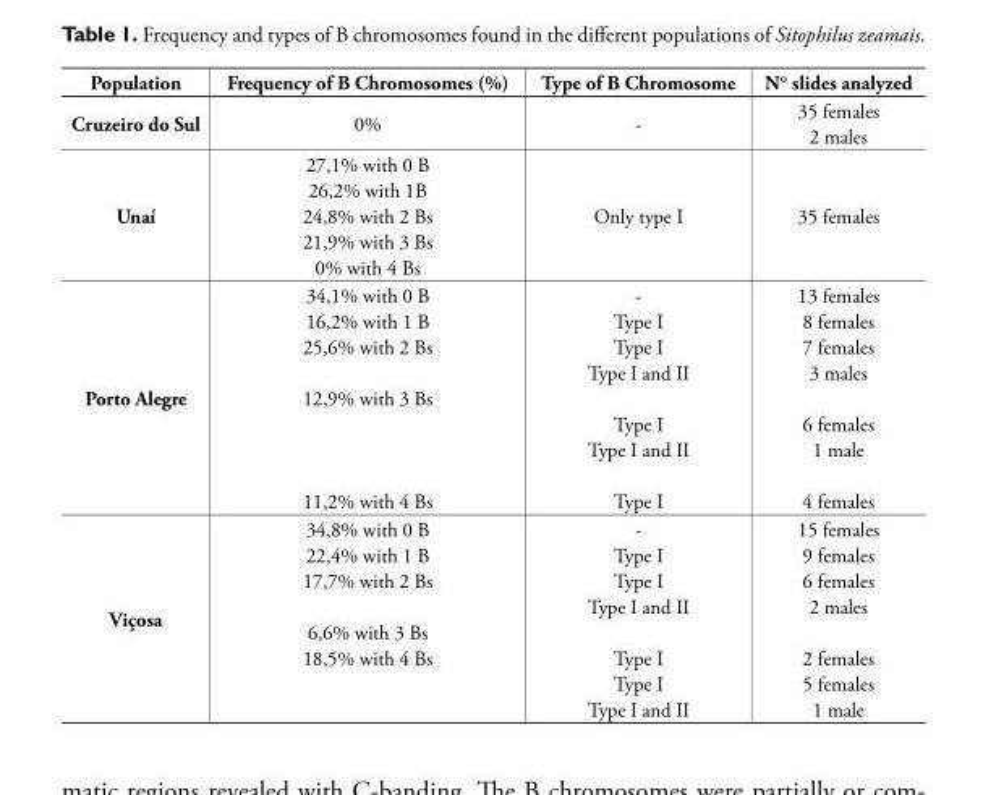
<table><thead><tr><td>Population</td><td>Frequency of B Chromosomes (%)</td><td>Type of B Chromosome</td><td>N° slides analyzed</td></tr></thead><tbody><tr><td>Cruzeiro do Sul</td><td>0%</td><td>-</td><td>35 females 2 males</td></tr><tr><td>Unaí</td><td>27,1% with 0 B 26,2% with 1B 24,8% with 2 Bs 21,9% with 3 Bs 0% with 4 Bs</td><td>Only type I</td><td>35 females</td></tr><tr><td>Porto Alegre</td><td>34,1% with 0 B 16,2% with 1 B 25,6% with 2 Bs 12,9% with 3 Bs 11,2% with 4 Bs</td><td>- Type I Type I Type I and II Type I Type I and II Type I</td><td>13 females 8 females 7 females 3 males 6 females 1 male 4 females</td></tr><tr><td>Viçosa</td><td>34,8% with 0 B 22,4% with 1 B 17,7% with 2 Bs 6,6% with 3 Bs 18,5% with 4 Bs</td><td>- Type I Type I Type I and II Type I Type I Type I and II</td><td>15 females 9 females 6 females 2 males 2 females 5 females 1 male</td></tr></tbody></table>